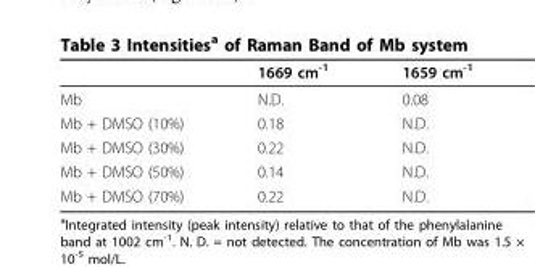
<table><thead><tr><td></td><td>1669 cm<sup>-1</sup></td><td>1659 cm<sup>-1</sup></td></tr></thead><tbody><tr><td>Mb</td><td>N.D.</td><td>0.08</td></tr><tr><td>Mb + DMSO (10%)</td><td>0.18</td><td>N.D.</td></tr><tr><td>Mb + DMSO (30%)</td><td>0.22</td><td>N.D.</td></tr><tr><td>Mb + DMSO (50%)</td><td>0.14</td><td>N.D.</td></tr><tr><td>Mb + DMSO (70%)</td><td>0.22</td><td>N.D.</td></tr></tbody></table>